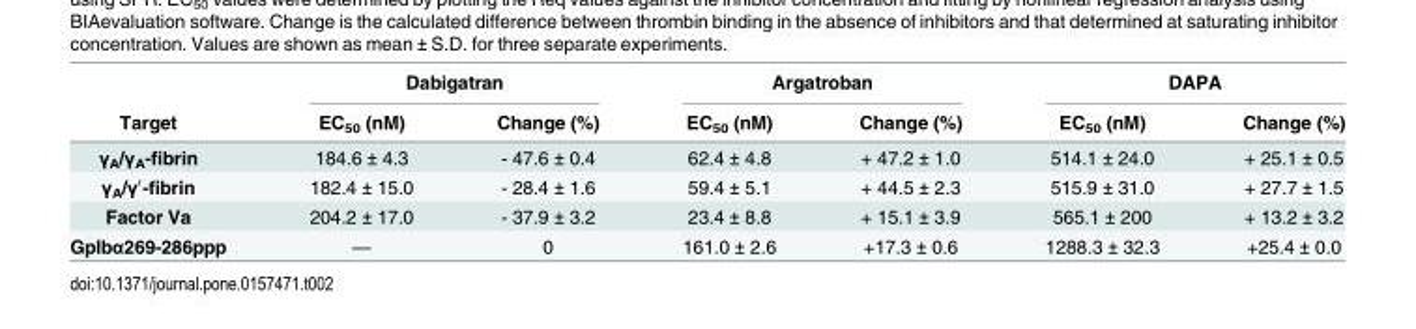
<table><thead><tr><td rowspan="2">Target</td><td colspan="2">Dabigatran</td><td colspan="2">Argatroban</td><td colspan="2">DAPA</td></tr><tr><td>EC<sub>50</sub> (nM)</td><td>Change (%)</td><td>EC<sub>50</sub> (nM)</td><td>Change (%)</td><td>EC<sub>50</sub> (nM)</td><td>Change (%)</td></tr></thead><tbody><tr><td>γ<sub>A</sub>/γ<sub>A</sub>-fibrin</td><td>184.6 ± 4.3</td><td>- 47.6 ± 0.4</td><td>62.4 ± 4.8</td><td>+ 47.2 ± 1.0</td><td>514.1 ± 24.0</td><td>+ 25.1 ± 0.5</td></tr><tr><td>γ<sub>A</sub>/γ′-fibrin</td><td>182.4 ± 15.0</td><td>- 28.4 ± 1.6</td><td>59.4 ± 5.1</td><td>+ 44.5 ± 2.3</td><td>515.9 ± 31.0</td><td>+ 27.7 ± 1.5</td></tr><tr><td>Factor Va</td><td>204.2 ± 17.0</td><td>- 37.9 ± 3.2</td><td>23.4 ± 8.8</td><td>+ 15.1 ± 3.9</td><td>565.1 ± 200</td><td>+ 13.2 ± 3.2</td></tr><tr><td>GpIbα269-286ppp</td><td>—</td><td>0</td><td>161.0 ± 2.6</td><td>+17.3 ± 0.6</td><td>1288.3 ± 32.3</td><td>+25.4 ± 0.0</td></tr></tbody></table>